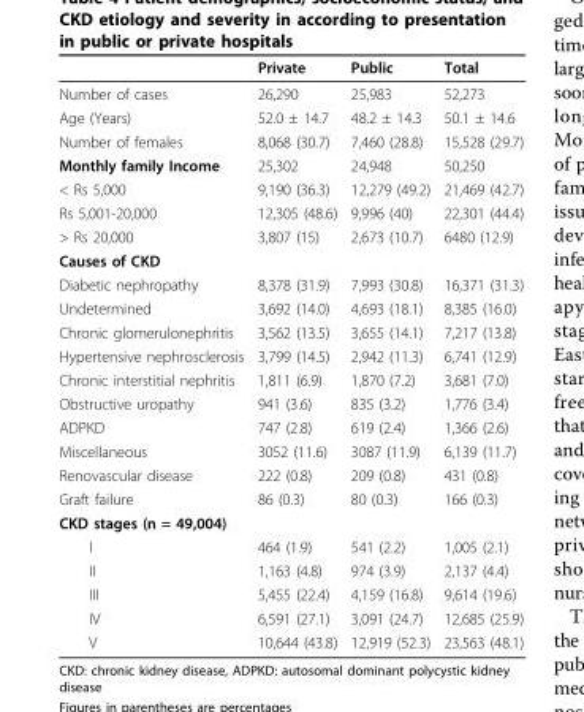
<table><thead><tr><td></td><td>Private</td><td>Public</td><td>Total</td></tr></thead><tbody><tr><td>Number of cases</td><td>26,290</td><td>25,983</td><td>52,273</td></tr><tr><td>Age (Years)</td><td>52.0 ± 14.7</td><td>48.2 ± 14.3</td><td>50.1 ± 14.6</td></tr><tr><td>Number of females</td><td>8,068 (30.7)</td><td>7,460 (28.8)</td><td>15,528 (29.7)</td></tr><tr><td>Monthly family Income</td><td>25,302</td><td>24,948</td><td>50,250</td></tr><tr><td>&lt; Rs 5,000</td><td>9,190 (36.3)</td><td>12,279 (49.2)</td><td>21,469 (42.7)</td></tr><tr><td>Rs 5,001-20,000</td><td>12,305 (48.6)</td><td>9,996 (40)</td><td>22,301 (44.4)</td></tr><tr><td>&gt; Rs 20,000</td><td>3,807 (15)</td><td>2,673 (10.7)</td><td>6480 (12.9)</td></tr><tr><td colspan="4">Causes of CKD</td></tr><tr><td>Diabetic nephropathy</td><td>8,378 (31.9)</td><td>7,993 (30.8)</td><td>16,371 (31.3)</td></tr><tr><td>Undetermined</td><td>3,692 (14.0)</td><td>4,693 (18.1)</td><td>8,385 (16.0)</td></tr><tr><td>Chronic glomerulonephritis</td><td>3,562 (13.5)</td><td>3,655 (14.1)</td><td>7,217 (13.8)</td></tr><tr><td>Hypertensive nephrosclerosis</td><td>3,799 (14.5)</td><td>2,942 (11.3)</td><td>6,741 (12.9)</td></tr><tr><td>Chronic interstitial nephritis</td><td>1,811 (6.9)</td><td>1,870 (7.2)</td><td>3,681 (7.0)</td></tr><tr><td>Obstructive uropathy</td><td>941 (3.6)</td><td>835 (3.2)</td><td>1,776 (3.4)</td></tr><tr><td>ADPKD</td><td>747 (2.8)</td><td>619 (2.4)</td><td>1,366 (2.6)</td></tr><tr><td>Miscellaneous</td><td>3052 (11.6)</td><td>3087 (11.9)</td><td>6,139 (11.7)</td></tr><tr><td>Renovascular disease</td><td>222 (0.8)</td><td>209 (0.8)</td><td>431 (0.8)</td></tr><tr><td>Graft failure</td><td>86 (0.3)</td><td>80 (0.3)</td><td>166 (0.3)</td></tr><tr><td colspan="4">CKD stages (n = 49,004)</td></tr><tr><td>I</td><td>464 (1.9)</td><td>541 (2.2)</td><td>1,005 (2.1)</td></tr><tr><td>II</td><td>1,163 (4.8)</td><td>974 (3.9)</td><td>2,137 (4.4)</td></tr><tr><td>III</td><td>5,455 (22.4)</td><td>4,159 (16.8)</td><td>9,614 (19.6)</td></tr><tr><td>IV</td><td>6,591 (27.1)</td><td>3,091 (24.7)</td><td>12,685 (25.9)</td></tr><tr><td>V</td><td>10,644 (43.8)</td><td>12,919 (52.3)</td><td>23,563 (48.1)</td></tr></tbody></table>